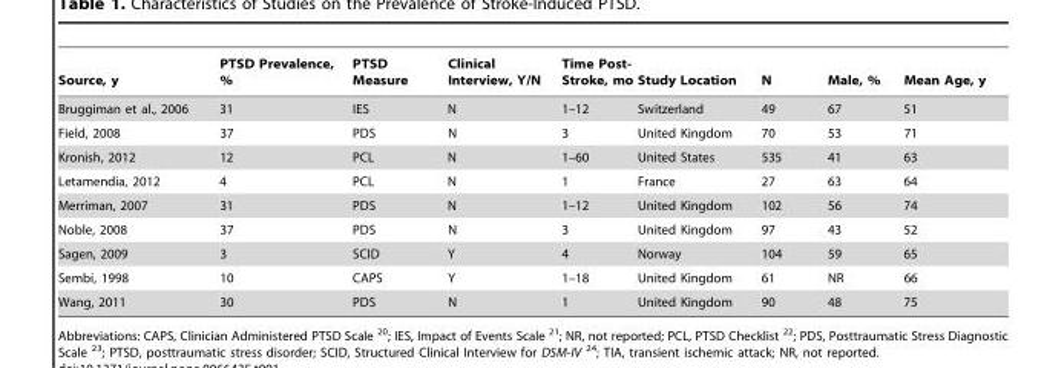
<table><thead><tr><td>Source, y</td><td>PTSD Prevalence, %</td><td>PTSD Measure</td><td>Clinical Interview, Y/N</td><td>Time Post- Stroke, mo</td><td>Study Location</td><td>N</td><td>Male, %</td><td>Mean Age, y</td></tr></thead><tbody><tr><td>Bruggiman et al., 2006</td><td>31</td><td>IES</td><td>N</td><td>1–12</td><td>Switzerland</td><td>49</td><td>67</td><td>51</td></tr><tr><td>Field, 2008</td><td>37</td><td>PDS</td><td>N</td><td>3</td><td>United Kingdom</td><td>70</td><td>53</td><td>71</td></tr><tr><td>Kronish, 2012</td><td>12</td><td>PCL</td><td>N</td><td>1–60</td><td>United States</td><td>535</td><td>41</td><td>63</td></tr><tr><td>Letamendia, 2012</td><td>4</td><td>PCL</td><td>N</td><td>1</td><td>France</td><td>27</td><td>63</td><td>64</td></tr><tr><td>Merriman, 2007</td><td>31</td><td>PDS</td><td>N</td><td>1–12</td><td>United Kingdom</td><td>102</td><td>56</td><td>74</td></tr><tr><td>Noble, 2008</td><td>37</td><td>PDS</td><td>N</td><td>3</td><td>United Kingdom</td><td>97</td><td>43</td><td>52</td></tr><tr><td>Sagen, 2009</td><td>3</td><td>SCID</td><td>Y</td><td>4</td><td>Norway</td><td>104</td><td>59</td><td>65</td></tr><tr><td>Sembi, 1998</td><td>10</td><td>CAPS</td><td>Y</td><td>1–18</td><td>United Kingdom</td><td>61</td><td>NR</td><td>66</td></tr><tr><td>Wang, 2011</td><td>30</td><td>PDS</td><td>N</td><td>1</td><td>United Kingdom</td><td>90</td><td>48</td><td>75</td></tr></tbody></table>